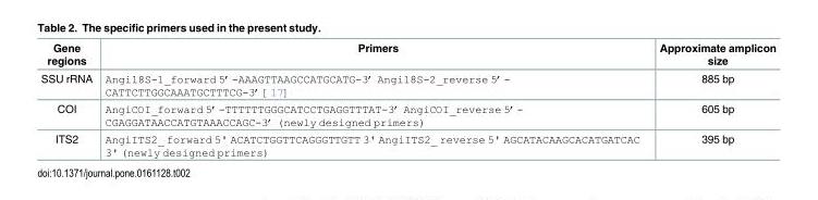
<table><thead><tr><td>Gene regions</td><td>Primers</td><td>Approximate amplicon size</td></tr></thead><tbody><tr><td>SSU rRNA</td><td>Angi18S-1_forward 5’-AAAGTTAAGCCATGCATG-3’ Angi18S-2_reverse 5’- CATTCTTGGCAAATGCTTTCG-3’ [17]</td><td>885 bp</td></tr><tr><td>COI</td><td>AngiCOI_forward 5’-TTTTTTGGGCATCCTGAGGTTTAT-3’ AngiCOI_reverse 5’- CGAGGATAACCATGTAAACCAGC-3’ (newly designed primers)</td><td>605 bp</td></tr><tr><td>ITS2</td><td>AngiITS2_ forward 5&#x27; ACATCTGGTTCAGGGTTGTT 3&#x27; AngiITS2_ reverse 5&#x27; AGCATACAAGCACATGATCAC 3&#x27; (newly designed primers)</td><td>395 bp</td></tr></tbody></table>